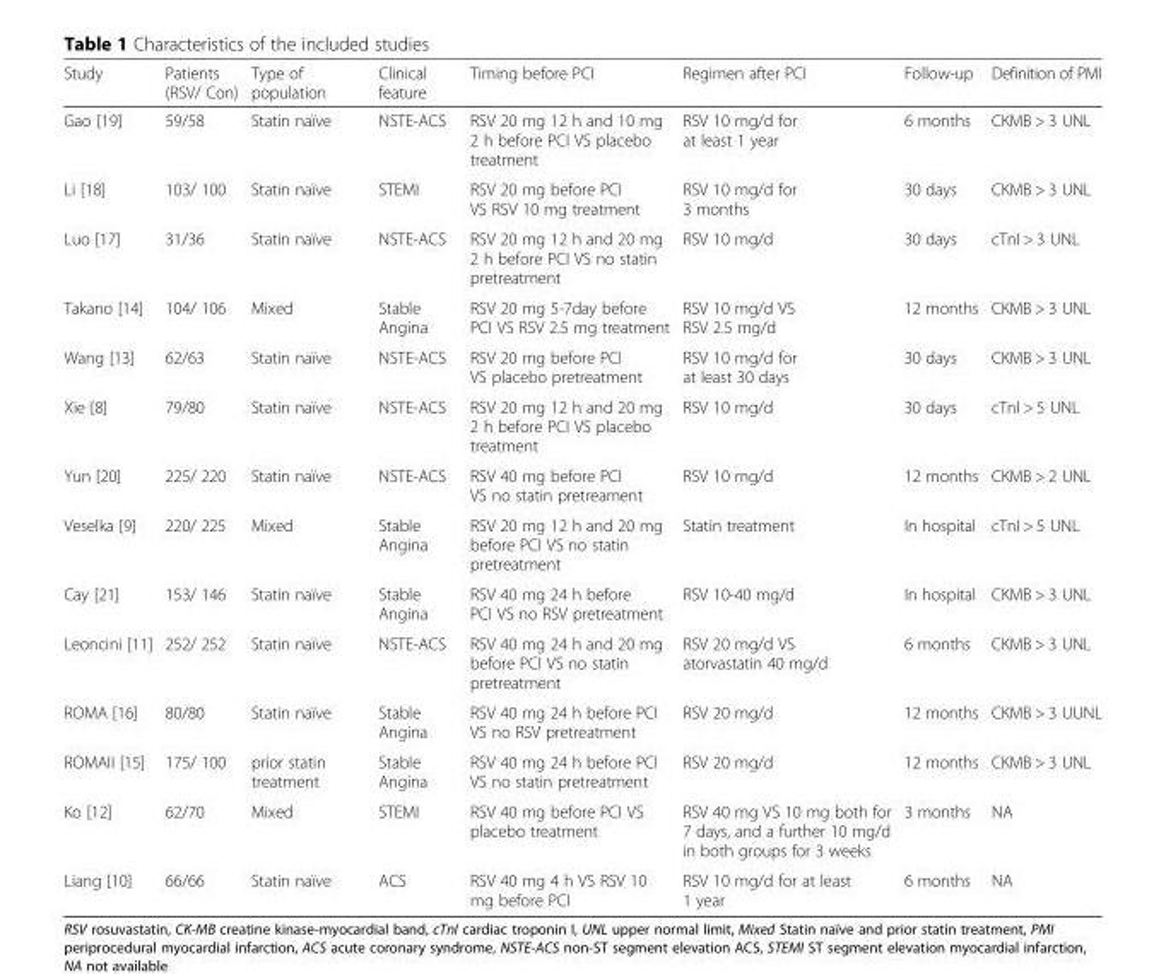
<table><thead><tr><td>Study</td><td>Patients (RSV/ Con)</td><td>Type of population</td><td>Clinical feature</td><td>Timing before PCI</td><td>Regimen after PCI</td><td>Follow-up</td><td>Definition of PMI</td></tr></thead><tbody><tr><td>Gao [19]</td><td>59/58</td><td>Statin naïve</td><td>NSTE-ACS</td><td>RSV 20 mg 12 h and 10 mg 2 h before PCI VS placebo treatment</td><td>RSV 10 mg/d for at least 1 year</td><td>6 months</td><td>CKMB &gt; 3 UNL</td></tr><tr><td>Li [18]</td><td>103/ 100</td><td>Statin naïve</td><td>STEMI</td><td>RSV 20 mg before PCI VS RSV 10 mg treatment</td><td>RSV 10 mg/d for 3 months</td><td>30 days</td><td>CKMB &gt; 3 UNL</td></tr><tr><td>Luo [17]</td><td>31/36</td><td>Statin naïve</td><td>NSTE-ACS</td><td>RSV 20 mg 12 h and 20 mg 2 h before PCI VS no statin pretreatment</td><td>RSV 10 mg/d</td><td>30 days</td><td>cTnI &gt; 3 UNL</td></tr><tr><td>Takano [14]</td><td>104/ 106</td><td>Mixed</td><td>Stable Angina</td><td>RSV 20 mg 5-7day before PCI VS RSV 2.5 mg treatment</td><td>RSV 10 mg/d VS RSV 2.5 mg/d</td><td>12 months</td><td>CKMB &gt; 3 UNL</td></tr><tr><td>Wang [13]</td><td>62/63</td><td>Statin naïve</td><td>NSTE-ACS</td><td>RSV 20 mg before PCI VS placebo pretreatment</td><td>RSV 10 mg/d for at least 30 days</td><td>30 days</td><td>CKMB &gt; 3 UNL</td></tr><tr><td>Xie [8]</td><td>79/80</td><td>Statin naïve</td><td>NSTE-ACS</td><td>RSV 20 mg 12 h and 20 mg 2 h before PCI VS placebo treatment</td><td>RSV 10 mg/d</td><td>30 days</td><td>cTnI &gt; 5 UNL</td></tr><tr><td>Yun [20]</td><td>225/ 220</td><td>Statin naïve</td><td>NSTE-ACS</td><td>RSV 40 mg before PCI VS no statin pretreament</td><td>RSV 10 mg/d</td><td>12 months</td><td>CKMB &gt; 2 UNL</td></tr><tr><td>Veselka [9]</td><td>220/ 225</td><td>Mixed</td><td>Stable Angina</td><td>RSV 20 mg 12 h and 20 mg before PCI VS no statin pretreatment</td><td>Statin treatment</td><td>In hospital</td><td>cTnI &gt; 5 UNL</td></tr><tr><td>Cay [21]</td><td>153/ 146</td><td>Statin naïve</td><td>Stable Angina</td><td>RSV 40 mg 24 h before PCI VS no RSV pretreatment</td><td>RSV 10-40 mg/d</td><td>In hospital</td><td>CKMB &gt; 3 UNL</td></tr><tr><td>Leoncini [11]</td><td>252/ 252</td><td>Statin naïve</td><td>NSTE-ACS</td><td>RSV 40 mg 24 h and 20 mg before PCI VS no statin pretreatment</td><td>RSV 20 mg/d VS atorvastatin 40 mg/d</td><td>6 months</td><td>CKMB &gt; 3 UNL</td></tr><tr><td>ROMA [16]</td><td>80/80</td><td>Statin naïve</td><td>Stable Angina</td><td>RSV 40 mg 24 h before PCI VS no RSV pretreatment</td><td>RSV 20 mg/d</td><td>12 months</td><td>CKMB &gt; 3 UUNL</td></tr><tr><td>ROMAII [15]</td><td>175/ 100</td><td>prior statin treatment</td><td>Stable Angina</td><td>RSV 40 mg 24 h before PCI VS no statin pretreatment</td><td>RSV 20 mg/d</td><td>12 months</td><td>CKMB &gt; 3 UNL</td></tr><tr><td>Ko [12]</td><td>62/70</td><td>Mixed</td><td>STEMI</td><td>RSV 40 mg before PCI VS placebo treatment</td><td>RSV 40 mg VS 10 mg both for 7 days, and a further 10 mg/d in both groups for 3 weeks</td><td>3 months</td><td>NA</td></tr><tr><td>Liang [10]</td><td>66/66</td><td>Statin naïve</td><td>ACS</td><td>RSV 40 mg 4 h VS RSV 10 mg before PCI</td><td>RSV 10 mg/d for at least 1 year</td><td>6 months</td><td>NA</td></tr></tbody></table>